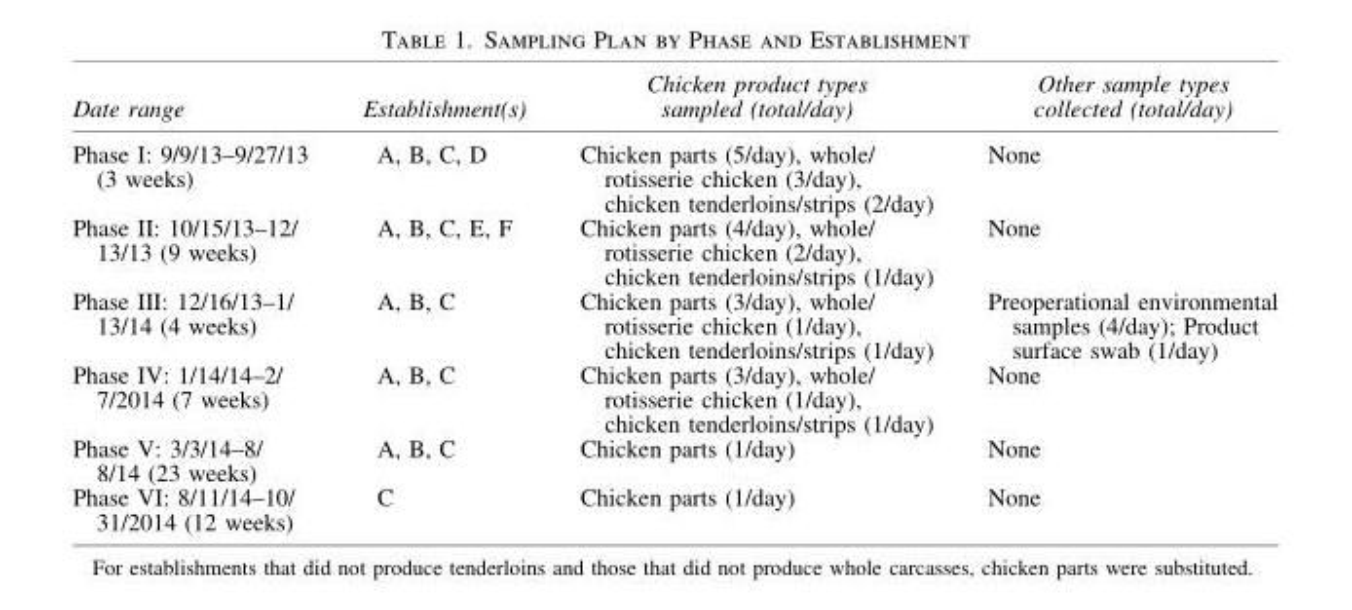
<table><thead><tr><td>Date range</td><td>Establishment(s)</td><td>Chicken product types sampled (total/day)</td><td>Other sample types collected (total/day)</td></tr></thead><tbody><tr><td>Phase I: 9/9/13–9/27/13 (3 weeks)</td><td>A, B, C, D</td><td>Chicken parts (5/day), whole/ rotisserie chicken (3/day), chicken tenderloins/strips (2/day)</td><td>None</td></tr><tr><td>Phase II: 10/15/13–12/ 13/13 (9 weeks)</td><td>A, B, C, E, F</td><td>Chicken parts (4/day), whole/ rotisserie chicken (2/day), chicken tenderloins/strips (1/day)</td><td>None</td></tr><tr><td>Phase III: 12/16/13–1/ 13/14 (4 weeks)</td><td>A, B, C</td><td>Chicken parts (3/day), whole/ rotisserie chicken (1/day), chicken tenderloins/strips (1/day)</td><td>Preoperational environmental samples (4/day); Product surface swab (1/day)</td></tr><tr><td>Phase IV: 1/14/14–2/ 7/2014 (7 weeks)</td><td>A, B, C</td><td>Chicken parts (3/day), whole/ rotisserie chicken (1/day), chicken tenderloins/strips (1/day)</td><td>None</td></tr><tr><td>Phase V: 3/3/14–8/ 8/14 (23 weeks)</td><td>A, B, C</td><td>Chicken parts (1/day)</td><td>None</td></tr><tr><td>Phase VI: 8/11/14–10/ 31/2014 (12 weeks)</td><td>C</td><td>Chicken parts (1/day)</td><td>None</td></tr></tbody></table>